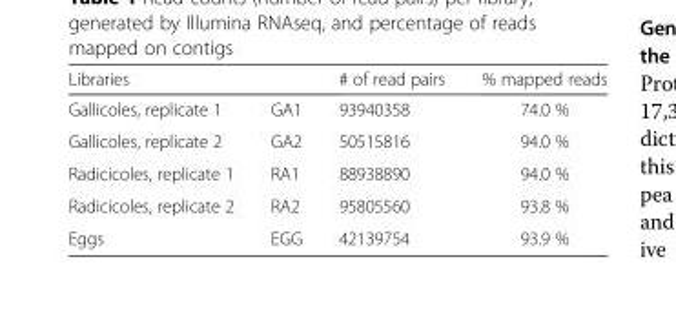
<table><thead><tr><td>Libraries</td><td></td><td># of read pairs</td><td>% mapped reads</td></tr></thead><tbody><tr><td>Gallicoles, replicate 1</td><td>GA1</td><td>93940358</td><td>74.0 %</td></tr><tr><td>Gallicoles, replicate 2</td><td>GA2</td><td>50515816</td><td>94.0 %</td></tr><tr><td>Radicicoles, replicate 1</td><td>RA1</td><td>88938890</td><td>94.0 %</td></tr><tr><td>Radicicoles, replicate 2</td><td>RA2</td><td>95805560</td><td>93.8 %</td></tr><tr><td>Eggs</td><td>EGG</td><td>42139754</td><td>93.9 %</td></tr></tbody></table>